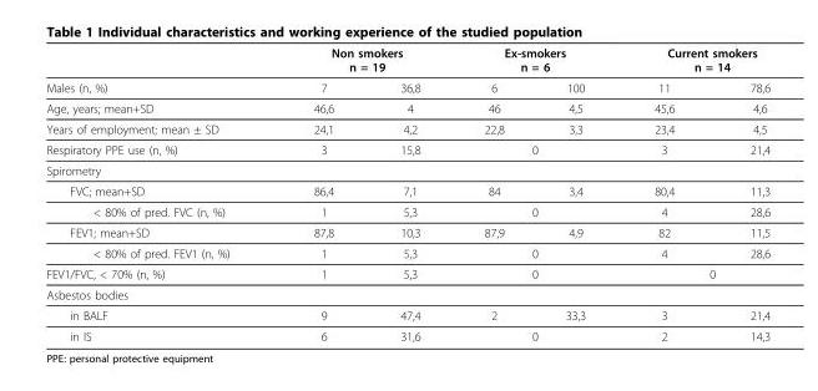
<table><thead><tr><td rowspan="2">Males (n, %)</td><td colspan="2">Non smokers n = 19</td><td colspan="2">Ex-smokers n = 6</td><td colspan="2">Current smokers n = 14</td></tr><tr><td>7</td><td>36,8</td><td>6</td><td>100</td><td>11</td><td>78,6</td></tr></thead><tbody><tr><td>Age, years; mean+SD</td><td>46,6</td><td>4</td><td>46</td><td>4,5</td><td>45,6</td><td>4,6</td></tr><tr><td>Years of employment; mean ± SD</td><td>24,1</td><td>4,2</td><td>22,8</td><td>3,3</td><td>23,4</td><td>4,5</td></tr><tr><td>Respiratory PPE use (n, %)</td><td>3</td><td>15,8</td><td colspan="2">0</td><td>3</td><td>21,4</td></tr><tr><td colspan="7">Spirometry</td></tr><tr><td>FVC; mean+SD</td><td>86,4</td><td>7,1</td><td>84</td><td>3,4</td><td>80,4</td><td>11,3</td></tr><tr><td>&lt; 80% of pred. FVC (n, %)</td><td>1</td><td>5,3</td><td colspan="2">0</td><td>4</td><td>28,6</td></tr><tr><td>FEV1; mean+SD</td><td>87,8</td><td>10,3</td><td>87,9</td><td>4,9</td><td>82</td><td>11,5</td></tr><tr><td>&lt; 80% of pred. FEV1 (n, %)</td><td>1</td><td>5,3</td><td colspan="2">0</td><td>4</td><td>28,6</td></tr><tr><td>FEV1/FVC, &lt; 70% (n, %)</td><td>1</td><td>5,3</td><td colspan="2">0</td><td colspan="2">0</td></tr><tr><td colspan="7">Asbestos bodies</td></tr><tr><td>in BALF</td><td>9</td><td>47,4</td><td>2</td><td>33,3</td><td>3</td><td>21,4</td></tr><tr><td>in IS</td><td>6</td><td>31,6</td><td colspan="2">0</td><td>2</td><td>14,3</td></tr></tbody></table>